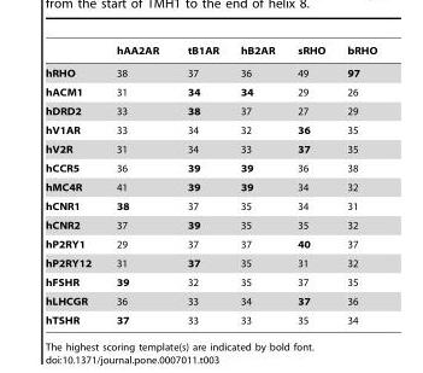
<table><thead><tr><td></td><td>hAA2AR</td><td>tB1AR</td><td>hB2AR</td><td>sRHO</td><td>bRHO</td></tr></thead><tbody><tr><td>hRHO</td><td>38</td><td>37</td><td>36</td><td>49</td><td>97</td></tr><tr><td>hACM1</td><td>31</td><td>34</td><td>34</td><td>29</td><td>26</td></tr><tr><td>hDRD2</td><td>33</td><td>38</td><td>37</td><td>27</td><td>29</td></tr><tr><td>hV1AR</td><td>33</td><td>34</td><td>32</td><td>36</td><td>35</td></tr><tr><td>hV2R</td><td>31</td><td>34</td><td>33</td><td>37</td><td>35</td></tr><tr><td>hCCR5</td><td>36</td><td>39</td><td>39</td><td>36</td><td>38</td></tr><tr><td>hMC4R</td><td>41</td><td>39</td><td>39</td><td>34</td><td>32</td></tr><tr><td>hCNR1</td><td>38</td><td>37</td><td>35</td><td>34</td><td>31</td></tr><tr><td>hCNR2</td><td>37</td><td>39</td><td>35</td><td>35</td><td>32</td></tr><tr><td>hP2RY1</td><td>29</td><td>37</td><td>37</td><td>40</td><td>37</td></tr><tr><td>hP2RY12</td><td>31</td><td>37</td><td>35</td><td>31</td><td>32</td></tr><tr><td>hFSHR</td><td>39</td><td>32</td><td>35</td><td>37</td><td>35</td></tr><tr><td>hLHCGR</td><td>36</td><td>33</td><td>34</td><td>37</td><td>36</td></tr><tr><td>hTSHR</td><td>37</td><td>33</td><td>33</td><td>35</td><td>34</td></tr></tbody></table>